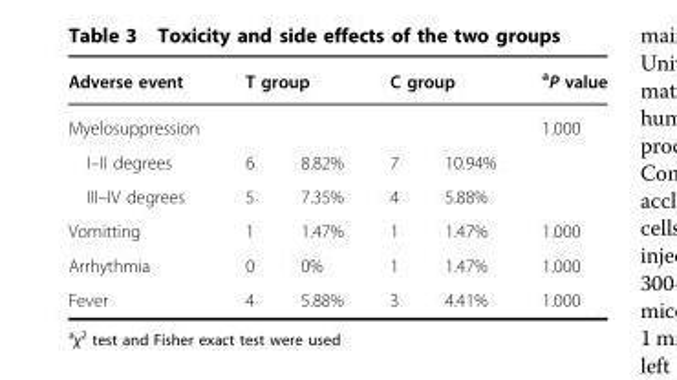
<table><thead><tr><td rowspan="2">Adverse event Myelosuppression</td><td colspan="2">T group</td><td colspan="2">C group</td><td rowspan="2"><sup>a</sup>P value 1.000</td></tr><tr><td></td><td></td><td></td><td></td></tr></thead><tbody><tr><td>I–II degrees</td><td>6</td><td>8.82%</td><td>7</td><td>10.94%</td><td></td></tr><tr><td>III–IV degrees</td><td>5</td><td>7.35%</td><td>4</td><td>5.88%</td><td></td></tr><tr><td>Vomitting</td><td>1</td><td>1.47%</td><td>1</td><td>1.47%</td><td>1.000</td></tr><tr><td>Arrhythmia</td><td>0</td><td>0%</td><td>1</td><td>1.47%</td><td>1.000</td></tr><tr><td>Fever</td><td>4</td><td>5.88%</td><td>3</td><td>4.41%</td><td>1.000</td></tr></tbody></table>